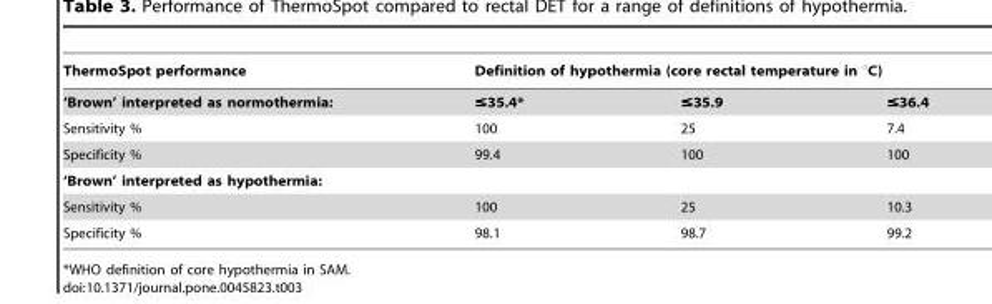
<table><thead><tr><td rowspan="2">ThermoSpot performance ‘Brown’ interpreted as normothermia:</td><td colspan="3">Definition of hypothermia (core rectal temperature in °C)</td></tr><tr><td>≤35.4*</td><td>≤35.9</td><td>≤36.4</td></tr></thead><tbody><tr><td>Sensitivity %</td><td>100</td><td>25</td><td>7.4</td></tr><tr><td>Specificity %</td><td>99.4</td><td>100</td><td>100</td></tr><tr><td colspan="4">‘Brown’ interpreted as hypothermia:</td></tr><tr><td>Sensitivity %</td><td>100</td><td>25</td><td>10.3</td></tr><tr><td>Specificity %</td><td>98.1</td><td>98.7</td><td>99.2</td></tr></tbody></table>